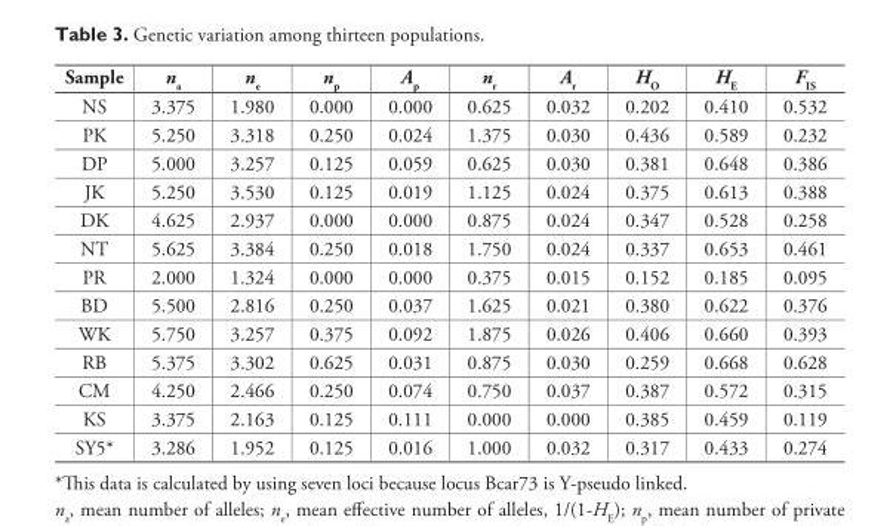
<table><thead><tr><td>Sample</td><td>n<sub>a</sub></td><td>n<sub>e</sub></td><td>n<sub>p</sub></td><td>A<sub>p</sub></td><td>n<sub>r</sub></td><td>A<sub>r</sub></td><td>H<sub>O</sub></td><td>H<sub>E</sub></td><td>F<sub>IS</sub></td></tr></thead><tbody><tr><td>NS</td><td>3.375</td><td>1.980</td><td>0.000</td><td>0.000</td><td>0.625</td><td>0.032</td><td>0.202</td><td>0.410</td><td>0.532</td></tr><tr><td>PK</td><td>5.250</td><td>3.318</td><td>0.250</td><td>0.024</td><td>1.375</td><td>0.030</td><td>0.436</td><td>0.589</td><td>0.232</td></tr><tr><td>DP</td><td>5.000</td><td>3.257</td><td>0.125</td><td>0.059</td><td>0.625</td><td>0.030</td><td>0.381</td><td>0.648</td><td>0.386</td></tr><tr><td>JK</td><td>5.250</td><td>3.530</td><td>0.125</td><td>0.019</td><td>1.125</td><td>0.024</td><td>0.375</td><td>0.613</td><td>0.388</td></tr><tr><td>DK</td><td>4.625</td><td>2.937</td><td>0.000</td><td>0.000</td><td>0.875</td><td>0.024</td><td>0.347</td><td>0.528</td><td>0.258</td></tr><tr><td>NT</td><td>5.625</td><td>3.384</td><td>0.250</td><td>0.018</td><td>1.750</td><td>0.024</td><td>0.337</td><td>0.653</td><td>0.461</td></tr><tr><td>PR</td><td>2.000</td><td>1.324</td><td>0.000</td><td>0.000</td><td>0.375</td><td>0.015</td><td>0.152</td><td>0.185</td><td>0.095</td></tr><tr><td>BD</td><td>5.500</td><td>2.816</td><td>0.250</td><td>0.037</td><td>1.625</td><td>0.021</td><td>0.380</td><td>0.622</td><td>0.376</td></tr><tr><td>WK</td><td>5.750</td><td>3.257</td><td>0.375</td><td>0.092</td><td>1.875</td><td>0.026</td><td>0.406</td><td>0.660</td><td>0.393</td></tr><tr><td>RB</td><td>5.375</td><td>3.302</td><td>0.625</td><td>0.031</td><td>0.875</td><td>0.030</td><td>0.259</td><td>0.668</td><td>0.628</td></tr><tr><td>CM</td><td>4.250</td><td>2.466</td><td>0.250</td><td>0.074</td><td>0.750</td><td>0.037</td><td>0.387</td><td>0.572</td><td>0.315</td></tr><tr><td>KS</td><td>3.375</td><td>2.163</td><td>0.125</td><td>0.111</td><td>0.000</td><td>0.000</td><td>0.385</td><td>0.459</td><td>0.119</td></tr><tr><td>SY5*</td><td>3.286</td><td>1.952</td><td>0.125</td><td>0.016</td><td>1.000</td><td>0.032</td><td>0.317</td><td>0.433</td><td>0.274</td></tr></tbody></table>